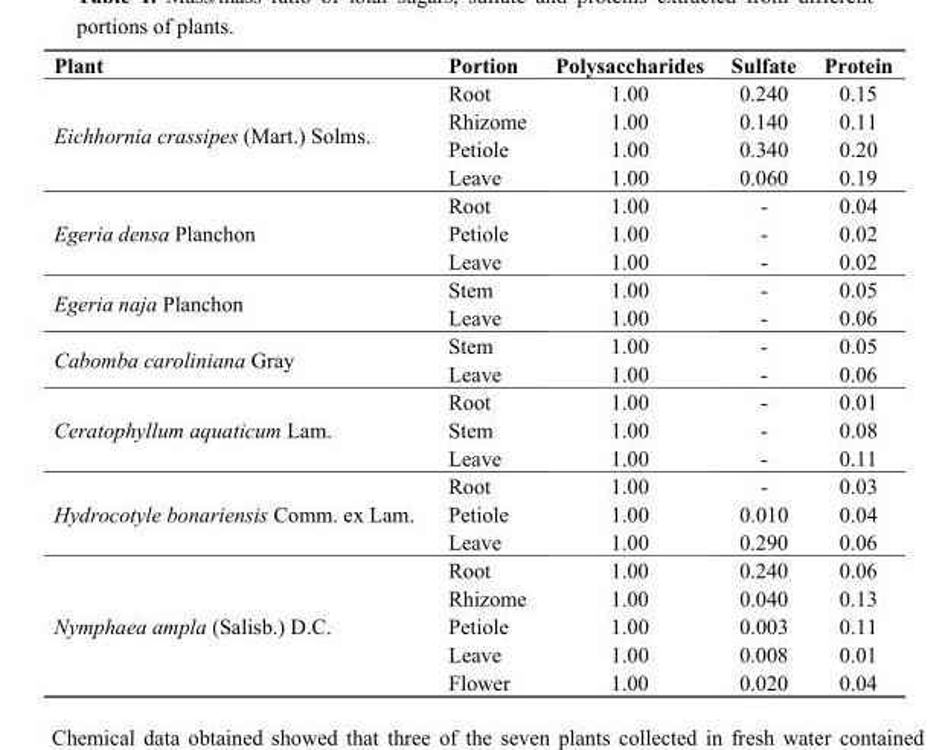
<table><thead><tr><td>Plant</td><td>Portion</td><td>Polysaccharides</td><td>Sulfate</td><td>Protein</td></tr></thead><tbody><tr><td rowspan="4">Eichhornia crassipes (Mart.) Solms.</td><td>Root</td><td>1.00</td><td>0.240</td><td>0.15</td></tr><tr><td>Rhizome</td><td>1.00</td><td>0.140</td><td>0.11</td></tr><tr><td>Petiole</td><td>1.00</td><td>0.340</td><td>0.20</td></tr><tr><td>Leave</td><td>1.00</td><td>0.060</td><td>0.19</td></tr><tr><td rowspan="3">Egeria densa Planchon</td><td>Root</td><td>1.00</td><td>-</td><td>0.04</td></tr><tr><td>Petiole</td><td>1.00</td><td>-</td><td>0.02</td></tr><tr><td>Leave</td><td>1.00</td><td>-</td><td>0.02</td></tr><tr><td rowspan="2">Egeria naja Planchon</td><td>Stem</td><td>1.00</td><td>-</td><td>0.05</td></tr><tr><td>Leave</td><td>1.00</td><td>-</td><td>0.06</td></tr><tr><td rowspan="2">Cabomba caroliniana Gray</td><td>Stem</td><td>1.00</td><td>-</td><td>0.05</td></tr><tr><td>Leave</td><td>1.00</td><td>-</td><td>0.06</td></tr><tr><td rowspan="3">Ceratophyllum aquaticum Lam.</td><td>Root</td><td>1.00</td><td>-</td><td>0.01</td></tr><tr><td>Stem</td><td>1.00</td><td>-</td><td>0.08</td></tr><tr><td>Leave</td><td>1.00</td><td>-</td><td>0.11</td></tr><tr><td rowspan="3">Hydrocotyle bonariensis Comm. ex Lam.</td><td>Root</td><td>1.00</td><td>-</td><td>0.03</td></tr><tr><td>Petiole</td><td>1.00</td><td>0.010</td><td>0.04</td></tr><tr><td>Leave</td><td>1.00</td><td>0.290</td><td>0.06</td></tr><tr><td rowspan="5">Nymphaea ampla (Salisb.) D.C.</td><td>Root</td><td>1.00</td><td>0.240</td><td>0.06</td></tr><tr><td>Rhizome</td><td>1.00</td><td>0.040</td><td>0.13</td></tr><tr><td>Petiole</td><td>1.00</td><td>0.003</td><td>0.11</td></tr><tr><td>Leave</td><td>1.00</td><td>0.008</td><td>0.01</td></tr><tr><td>Flower</td><td>1.00</td><td>0.020</td><td>0.04</td></tr></tbody></table>